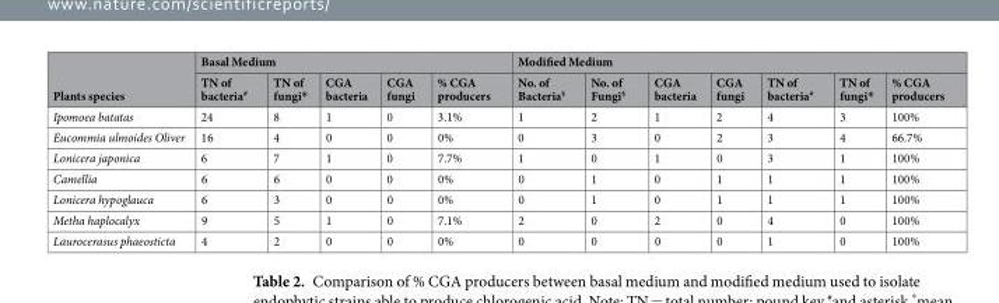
<table><thead><tr><td rowspan="2">Plants species</td><td colspan="5">Basal Medium</td><td colspan="7">Modified Medium</td></tr><tr><td>TN of bacteria<sup>#</sup></td><td>TN of fungi*</td><td>CGA bacteria</td><td>CGA fungi</td><td>% CGA producers</td><td>No. of Bacteria<sup>§</sup></td><td>No. of Fungi<sup>§</sup></td><td>CGA bacteria</td><td>CGA fungi</td><td>TN of bacteria<sup>#</sup></td><td>TN of fungi*</td><td>% CGA producers</td></tr></thead><tbody><tr><td>Ipomoea batatas</td><td>24</td><td>8</td><td>1</td><td>0</td><td>3.1%</td><td>1</td><td>2</td><td>1</td><td>2</td><td>4</td><td>3</td><td>100%</td></tr><tr><td>Eucommia ulmoides Oliver</td><td>16</td><td>4</td><td>0</td><td>0</td><td>0%</td><td>0</td><td>3</td><td>0</td><td>2</td><td>3</td><td>4</td><td>66.7%</td></tr><tr><td>Lonicera japonica</td><td>6</td><td>7</td><td>1</td><td>0</td><td>7.7%</td><td>1</td><td>0</td><td>1</td><td>0</td><td>3</td><td>1</td><td>100%</td></tr><tr><td>Camellia</td><td>6</td><td>6</td><td>0</td><td>0</td><td>0%</td><td>0</td><td>1</td><td>0</td><td>1</td><td>1</td><td>1</td><td>100%</td></tr><tr><td>Lonicera hypoglauca</td><td>6</td><td>3</td><td>0</td><td>0</td><td>0%</td><td>0</td><td>1</td><td>0</td><td>1</td><td>1</td><td>1</td><td>100%</td></tr><tr><td>Metha haplocalyx</td><td>9</td><td>5</td><td>1</td><td>0</td><td>7.1%</td><td>2</td><td>0</td><td>2</td><td>0</td><td>4</td><td>0</td><td>100%</td></tr><tr><td>Laurocerasus phaeosticta</td><td>4</td><td>2</td><td>0</td><td>0</td><td>0%</td><td>0</td><td>0</td><td>0</td><td>0</td><td>1</td><td>0</td><td>100%</td></tr></tbody></table>